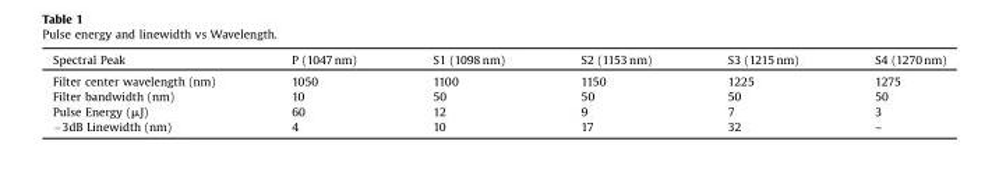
<table><thead><tr><td>Spectral Peak</td><td>P (1047 nm)</td><td>S1 (1098 nm)</td><td>S2 (1153 nm)</td><td>S3 (1215 nm)</td><td>S4 (1270 nm)</td></tr></thead><tbody><tr><td>Filter center wavelength (nm)</td><td>1050</td><td>1100</td><td>1150</td><td>1225</td><td>1275</td></tr><tr><td>Filter bandwidth (nm)</td><td>10</td><td>50</td><td>50</td><td>50</td><td>50</td></tr><tr><td>Pulse Energy (μJ)</td><td>60</td><td>12</td><td>9</td><td>7</td><td>3</td></tr><tr><td>−3dB Linewidth (nm)</td><td>4</td><td>10</td><td>17</td><td>32</td><td>–</td></tr></tbody></table>